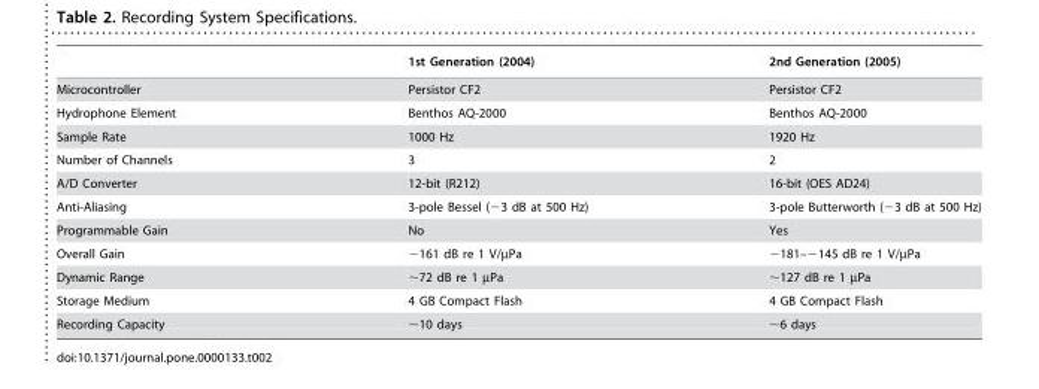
<table><thead><tr><td></td><td>1st Generation (2004)</td><td>2nd Generation (2005)</td></tr></thead><tbody><tr><td>Microcontroller</td><td>Persistor CF2</td><td>Persistor CF2</td></tr><tr><td>Hydrophone Element</td><td>Benthos AQ-2000</td><td>Benthos AQ-2000</td></tr><tr><td>Sample Rate</td><td>1000 Hz</td><td>1920 Hz</td></tr><tr><td>Number of Channels</td><td>3</td><td>2</td></tr><tr><td>A/D Converter</td><td>12-bit (R212)</td><td>16-bit (OES AD24)</td></tr><tr><td>Anti-Aliasing</td><td>3-pole Bessel (−3 dB at 500 Hz)</td><td>3-pole Butterworth (−3 dB at 500 Hz)</td></tr><tr><td>Programmable Gain</td><td>No</td><td>Yes</td></tr><tr><td>Overall Gain</td><td>−161 dB re 1 V/µPa</td><td>−181–−145 dB re 1 V/µPa</td></tr><tr><td>Dynamic Range</td><td>∼72 dB re 1 µPa</td><td>∼127 dB re 1 µPa</td></tr><tr><td>Storage Medium</td><td>4 GB Compact Flash</td><td>4 GB Compact Flash</td></tr><tr><td>Recording Capacity</td><td>∼10 days</td><td>∼6 days</td></tr></tbody></table>